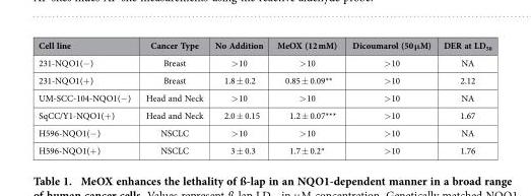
<table><thead><tr><td>Cell line</td><td>Cancer Type</td><td>No Addition</td><td>MeOX (12 mM)</td><td>Dicoumarol (50 μM)</td><td>DER at LD<sub>50</sub></td></tr></thead><tbody><tr><td>231-NQO1(− )</td><td>Breast</td><td>&gt; 10</td><td>&gt; 10</td><td>&gt; 10</td><td>NA</td></tr><tr><td>231-NQO1(+ )</td><td>Breast</td><td>1.8 ± 0.2</td><td>0.85 ± 0.09**</td><td>&gt; 10</td><td>2.12</td></tr><tr><td>UM-SCC-104-NQO1(− )</td><td>Head and Neck</td><td>&gt; 10</td><td>&gt; 10</td><td>&gt; 10</td><td>NA</td></tr><tr><td>SqCC/Y1-NQO1(+ )</td><td>Head and Neck</td><td>2.0 ± 0.15</td><td>1.2 ± 0.07***</td><td>&gt; 10</td><td>1.67</td></tr><tr><td>H596-NQO1(− )</td><td>NSCLC</td><td>&gt; 10</td><td>&gt; 10</td><td>&gt; 10</td><td>NA</td></tr><tr><td>H596-NQO1(+ )</td><td>NSCLC</td><td>3 ± 0.3</td><td>1.7 ± 0.2*</td><td>&gt; 10</td><td>1.76</td></tr></tbody></table>